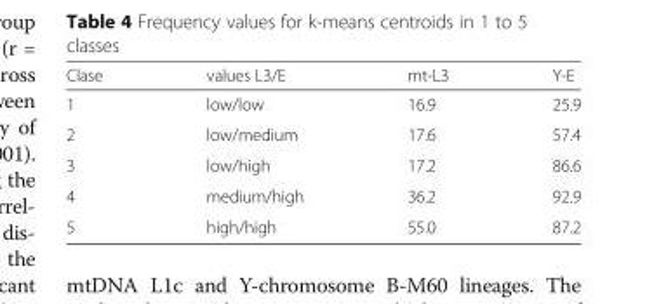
<table><thead><tr><td>Clase</td><td>values L3/E</td><td>mt-L3</td><td>Y-E</td></tr></thead><tbody><tr><td>1</td><td>low/low</td><td>16.9</td><td>25.9</td></tr><tr><td>2</td><td>low/medium</td><td>17.6</td><td>57.4</td></tr><tr><td>3</td><td>low/high</td><td>17.2</td><td>86.6</td></tr><tr><td>4</td><td>medium/high</td><td>36.2</td><td>92.9</td></tr><tr><td>5</td><td>high/high</td><td>55.0</td><td>87.2</td></tr></tbody></table>